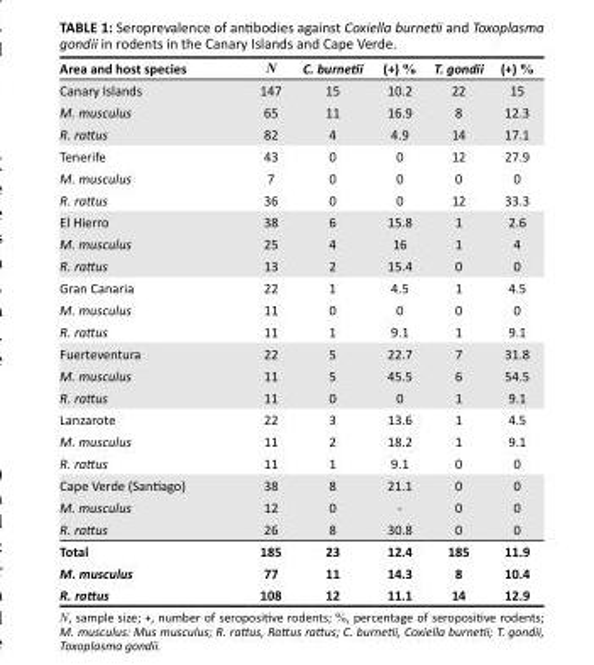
<table><thead><tr><td>Area and host species</td><td>N</td><td>C. burnetii</td><td>(+) %</td><td>T. gondii</td><td>(+) %</td></tr></thead><tbody><tr><td>Canary Islands</td><td>147</td><td>15</td><td>10.2</td><td>22</td><td>15</td></tr><tr><td>M. musculus</td><td>65</td><td>11</td><td>16.9</td><td>8</td><td>12.3</td></tr><tr><td>R. rattus</td><td>82</td><td>4</td><td>4.9</td><td>14</td><td>17.1</td></tr><tr><td>Tenerife</td><td>43</td><td>0</td><td>0</td><td>12</td><td>27.9</td></tr><tr><td>M. musculus</td><td>7</td><td>0</td><td>0</td><td>0</td><td>0</td></tr><tr><td>R. rattus</td><td>36</td><td>0</td><td>0</td><td>12</td><td>33.3</td></tr><tr><td>El Hierro</td><td>38</td><td>6</td><td>15.8</td><td>1</td><td>2.6</td></tr><tr><td>M. musculus</td><td>25</td><td>4</td><td>16</td><td>1</td><td>4</td></tr><tr><td>R. rattus</td><td>13</td><td>2</td><td>15.4</td><td>0</td><td>0</td></tr><tr><td>Gran Canaria</td><td>22</td><td>1</td><td>4.5</td><td>1</td><td>4.5</td></tr><tr><td>M. musculus</td><td>11</td><td>0</td><td>0</td><td>0</td><td>0</td></tr><tr><td>R. rattus</td><td>11</td><td>1</td><td>9.1</td><td>1</td><td>9.1</td></tr><tr><td>Fuerteventura</td><td>22</td><td>5</td><td>22.7</td><td>7</td><td>31.8</td></tr><tr><td>M. musculus</td><td>11</td><td>5</td><td>45.5</td><td>6</td><td>54.5</td></tr><tr><td>R. rattus</td><td>11</td><td>0</td><td>0</td><td>1</td><td>9.1</td></tr><tr><td>Lanzarote</td><td>22</td><td>3</td><td>13.6</td><td>1</td><td>4.5</td></tr><tr><td>M. musculus</td><td>11</td><td>2</td><td>18.2</td><td>1</td><td>9.1</td></tr><tr><td>R. rattus</td><td>11</td><td>1</td><td>9.1</td><td>0</td><td>0</td></tr><tr><td>Cape Verde (Santiago)</td><td>38</td><td>8</td><td>21.1</td><td>0</td><td>0</td></tr><tr><td>M. musculus</td><td>12</td><td>0</td><td>-</td><td>0</td><td>0</td></tr><tr><td>R. rattus</td><td>26</td><td>8</td><td>30.8</td><td>0</td><td>0</td></tr><tr><td>Total</td><td>185</td><td>23</td><td>12.4</td><td>185</td><td>11.9</td></tr><tr><td>M. musculus</td><td>77</td><td>11</td><td>14.3</td><td>8</td><td>10.4</td></tr><tr><td>R. rattus</td><td>108</td><td>12</td><td>11.1</td><td>14</td><td>12.9</td></tr></tbody></table>